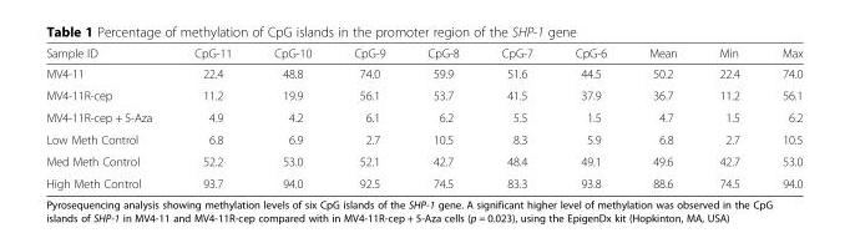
<table><thead><tr><td>Sample ID</td><td>CpG-11</td><td>CpG-10</td><td>CpG-9</td><td>CpG-8</td><td>CpG-7</td><td>CpG-6</td><td>Mean</td><td>Min</td><td>Max</td></tr></thead><tbody><tr><td>MV4-11</td><td>22.4</td><td>48.8</td><td>74.0</td><td>59.9</td><td>51.6</td><td>44.5</td><td>50.2</td><td>22.4</td><td>74.0</td></tr><tr><td>MV4-11R-cep</td><td>11.2</td><td>19.9</td><td>56.1</td><td>53.7</td><td>41.5</td><td>37.9</td><td>36.7</td><td>11.2</td><td>56.1</td></tr><tr><td>MV4-11R-cep + 5-Aza</td><td>4.9</td><td>4.2</td><td>6.1</td><td>6.2</td><td>5.5</td><td>1.5</td><td>4.7</td><td>1.5</td><td>6.2</td></tr><tr><td>Low Meth Control</td><td>6.8</td><td>6.9</td><td>2.7</td><td>10.5</td><td>8.3</td><td>5.9</td><td>6.8</td><td>2.7</td><td>10.5</td></tr><tr><td>Med Meth Control</td><td>52.2</td><td>53.0</td><td>52.1</td><td>42.7</td><td>48.4</td><td>49.1</td><td>49.6</td><td>42.7</td><td>53.0</td></tr><tr><td>High Meth Control</td><td>93.7</td><td>94.0</td><td>92.5</td><td>74.5</td><td>83.3</td><td>93.8</td><td>88.6</td><td>74.5</td><td>94.0</td></tr></tbody></table>